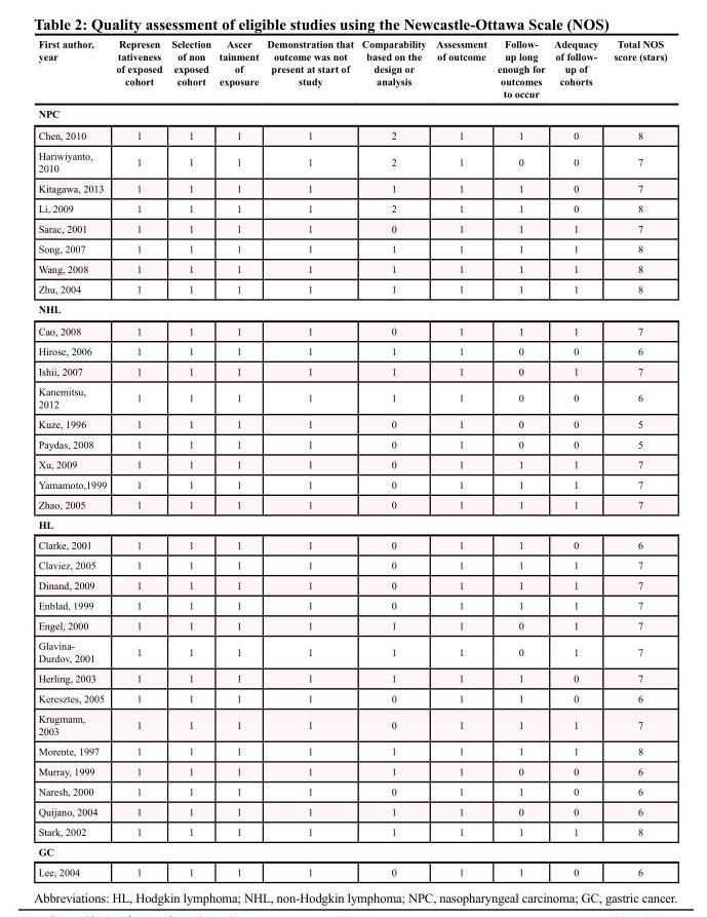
<table><thead><tr><td>First author, year</td><td>Represen tativeness of exposed cohort</td><td>Selection of non exposed cohort</td><td>Ascer tainment of exposure</td><td>Demonstration that outcome was not present at start of study</td><td>Comparability based on the design or analysis</td><td>Assessment of outcome</td><td>Follow- up long enough for outcomes to occur</td><td>Adequacy of follow- up of cohorts</td><td>Total NOS score (stars)</td></tr></thead><tbody><tr><td colspan="10">NPC</td></tr><tr><td>Chen, 2010</td><td>1</td><td>1</td><td>1</td><td>1</td><td>2</td><td>1</td><td>1</td><td>0</td><td>8</td></tr><tr><td>Hariwiyanto, 2010</td><td>1</td><td>1</td><td>1</td><td>1</td><td>2</td><td>1</td><td>0</td><td>0</td><td>7</td></tr><tr><td>Kitagawa, 2013</td><td>1</td><td>1</td><td>1</td><td>1</td><td>1</td><td>1</td><td>1</td><td>0</td><td>7</td></tr><tr><td>Li, 2009</td><td>1</td><td>1</td><td>1</td><td>1</td><td>2</td><td>1</td><td>1</td><td>0</td><td>8</td></tr><tr><td>Sarac, 2001</td><td>1</td><td>1</td><td>1</td><td>1</td><td>0</td><td>1</td><td>1</td><td>1</td><td>7</td></tr><tr><td>Song, 2007</td><td>1</td><td>1</td><td>1</td><td>1</td><td>1</td><td>1</td><td>1</td><td>1</td><td>8</td></tr><tr><td>Wang, 2008</td><td>1</td><td>1</td><td>1</td><td>1</td><td>1</td><td>1</td><td>1</td><td>1</td><td>8</td></tr><tr><td>Zhu, 2004</td><td>1</td><td>1</td><td>1</td><td>1</td><td>1</td><td>1</td><td>1</td><td>1</td><td>8</td></tr><tr><td colspan="10">NHL</td></tr><tr><td>Cao, 2008</td><td>1</td><td>1</td><td>1</td><td>1</td><td>0</td><td>1</td><td>1</td><td>1</td><td>7</td></tr><tr><td>Hirose, 2006</td><td>1</td><td>1</td><td>1</td><td>1</td><td>1</td><td>1</td><td>0</td><td>0</td><td>6</td></tr><tr><td>Ishii, 2007</td><td>1</td><td>1</td><td>1</td><td>1</td><td>1</td><td>1</td><td>0</td><td>1</td><td>7</td></tr><tr><td>Kanemitsu, 2012</td><td>1</td><td>1</td><td>1</td><td>1</td><td>1</td><td>1</td><td>0</td><td>0</td><td>6</td></tr><tr><td>Kuze, 1996</td><td>1</td><td>1</td><td>1</td><td>1</td><td>0</td><td>1</td><td>0</td><td>0</td><td>5</td></tr><tr><td>Paydas, 2008</td><td>1</td><td>1</td><td>1</td><td>1</td><td>0</td><td>1</td><td>0</td><td>0</td><td>5</td></tr><tr><td>Xu, 2009</td><td>1</td><td>1</td><td>1</td><td>1</td><td>0</td><td>1</td><td>1</td><td>1</td><td>7</td></tr><tr><td>Yamamoto,1999</td><td>1</td><td>1</td><td>1</td><td>1</td><td>0</td><td>1</td><td>1</td><td>1</td><td>7</td></tr><tr><td>Zhao, 2005</td><td>1</td><td>1</td><td>1</td><td>1</td><td>0</td><td>1</td><td>1</td><td>1</td><td>7</td></tr><tr><td colspan="10">HL</td></tr><tr><td>Clarke, 2001</td><td>1</td><td>1</td><td>1</td><td>1</td><td>0</td><td>1</td><td>1</td><td>0</td><td>6</td></tr><tr><td>Claviez, 2005</td><td>1</td><td>1</td><td>1</td><td>1</td><td>0</td><td>1</td><td>1</td><td>1</td><td>7</td></tr><tr><td>Dinand, 2009</td><td>1</td><td>1</td><td>1</td><td>1</td><td>0</td><td>1</td><td>1</td><td>1</td><td>7</td></tr><tr><td>Enblad, 1999</td><td>1</td><td>1</td><td>1</td><td>1</td><td>0</td><td>1</td><td>1</td><td>1</td><td>7</td></tr><tr><td>Engel, 2000</td><td>1</td><td>1</td><td>1</td><td>1</td><td>1</td><td>1</td><td>0</td><td>1</td><td>7</td></tr><tr><td>Glavina- Durdov, 2001</td><td>1</td><td>1</td><td>1</td><td>1</td><td>1</td><td>1</td><td>0</td><td>1</td><td>7</td></tr><tr><td>Herling, 2003</td><td>1</td><td>1</td><td>1</td><td>1</td><td>1</td><td>1</td><td>1</td><td>0</td><td>7</td></tr><tr><td>Keresztes, 2005</td><td>1</td><td>1</td><td>1</td><td>1</td><td>0</td><td>1</td><td>1</td><td>0</td><td>6</td></tr><tr><td>Krugmann, 2003</td><td>1</td><td>1</td><td>1</td><td>1</td><td>0</td><td>1</td><td>1</td><td>1</td><td>7</td></tr><tr><td>Morente, 1997</td><td>1</td><td>1</td><td>1</td><td>1</td><td>1</td><td>1</td><td>1</td><td>1</td><td>8</td></tr><tr><td>Murray, 1999</td><td>1</td><td>1</td><td>1</td><td>1</td><td>1</td><td>1</td><td>0</td><td>0</td><td>6</td></tr><tr><td>Naresh, 2000</td><td>1</td><td>1</td><td>1</td><td>1</td><td>0</td><td>1</td><td>1</td><td>0</td><td>6</td></tr><tr><td>Quijano, 2004</td><td>1</td><td>1</td><td>1</td><td>1</td><td>1</td><td>1</td><td>0</td><td>0</td><td>6</td></tr><tr><td>Stark, 2002</td><td>1</td><td>1</td><td>1</td><td>1</td><td>1</td><td>1</td><td>1</td><td>1</td><td>8</td></tr><tr><td colspan="10">GC</td></tr><tr><td>Lee, 2004</td><td>1</td><td>1</td><td>1</td><td>1</td><td>0</td><td>1</td><td>1</td><td>0</td><td>6</td></tr></tbody></table>